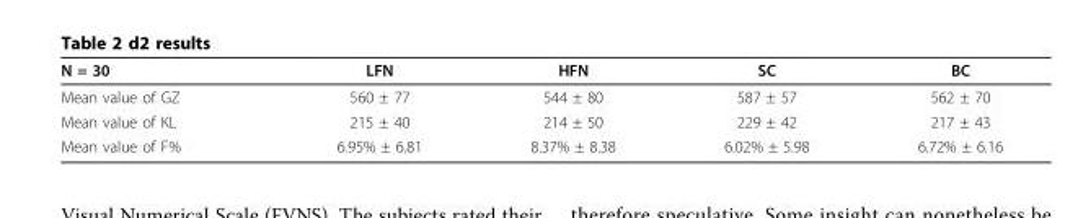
<table><thead><tr><td>N = 30</td><td>LFN</td><td>HFN</td><td>SC</td><td>BC</td></tr></thead><tbody><tr><td>Mean value of GZ</td><td>560 ± 77</td><td>544 ± 80</td><td>587 ± 57</td><td>562 ± 70</td></tr><tr><td>Mean value of KL</td><td>215 ± 40</td><td>214 ± 50</td><td>229 ± 42</td><td>217 ± 43</td></tr><tr><td>Mean value of F%</td><td>6.95% ± 6.81</td><td>8.37% ± 8.38</td><td>6.02% ± 5.98</td><td>6.72% ± 6.16</td></tr></tbody></table>